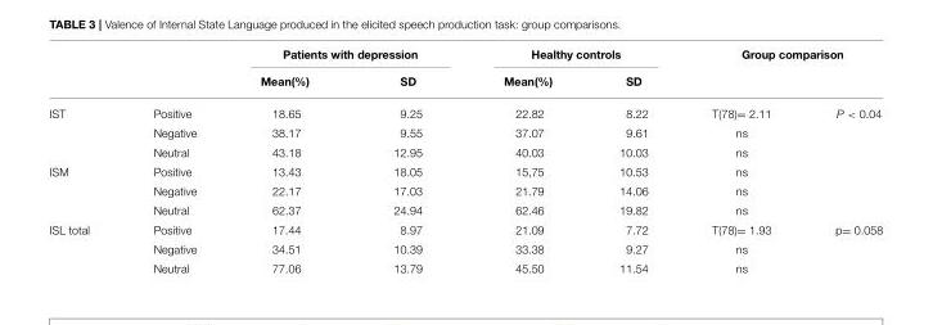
<table><thead><tr><td rowspan="2"></td><td rowspan="2"></td><td colspan="2">Patients with depression</td><td colspan="2">Healthy controls</td><td colspan="2">Group comparison</td></tr><tr><td>Mean(%)</td><td>SD</td><td>Mean(%)</td><td>SD</td><td></td><td></td></tr></thead><tbody><tr><td rowspan="3">IST</td><td>Positive</td><td>18.65</td><td>9.25</td><td>22.82</td><td>8.22</td><td>T(78)= 2.11</td><td>P &lt; 0.04</td></tr><tr><td>Negative</td><td>38.17</td><td>9.55</td><td>37.07</td><td>9.61</td><td>ns</td><td></td></tr><tr><td>Neutral</td><td>43.18</td><td>12.95</td><td>40.03</td><td>10.03</td><td>ns</td><td></td></tr><tr><td rowspan="3">ISM</td><td>Positive</td><td>13.43</td><td>18.05</td><td>15,75</td><td>10.53</td><td>ns</td><td></td></tr><tr><td>Negative</td><td>22.17</td><td>17.03</td><td>21.79</td><td>14.06</td><td>ns</td><td></td></tr><tr><td>Neutral</td><td>62.37</td><td>24.94</td><td>62.46</td><td>19.82</td><td>ns</td><td></td></tr><tr><td rowspan="3">ISL total</td><td>Positive</td><td>17.44</td><td>8.97</td><td>21.09</td><td>7.72</td><td>T(78)= 1.93</td><td>p= 0.058</td></tr><tr><td>Negative</td><td>34.51</td><td>10.39</td><td>33.38</td><td>9.27</td><td>ns</td><td></td></tr><tr><td>Neutral</td><td>77.06</td><td>13.79</td><td>45.50</td><td>11.54</td><td>ns</td><td></td></tr></tbody></table>